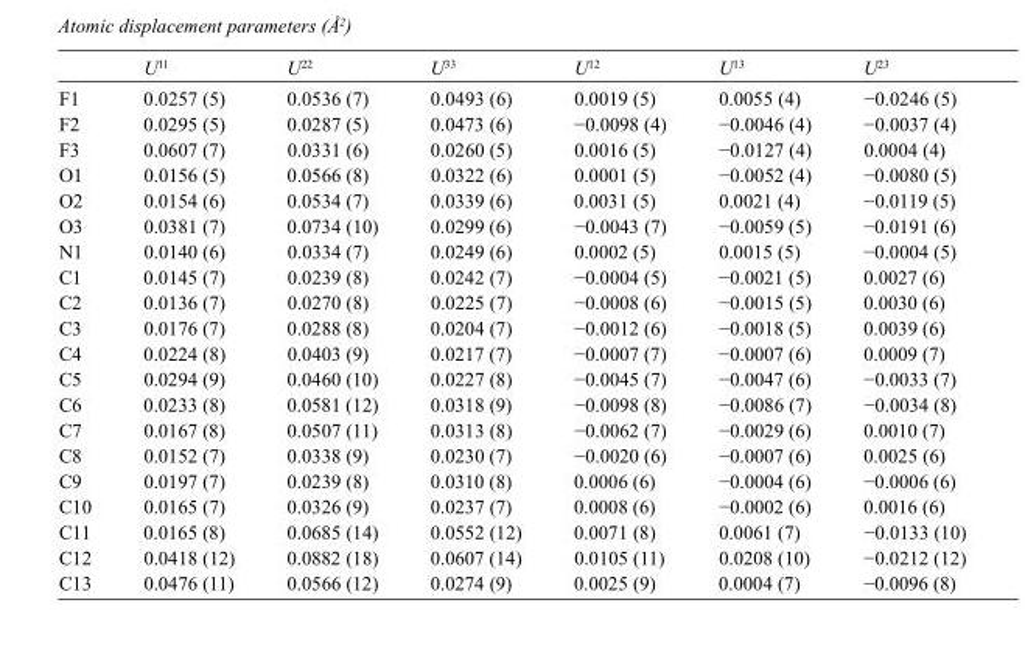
<table><thead><tr><td></td><td>U<sup>11</sup></td><td>U<sup>22</sup></td><td>U<sup>33</sup></td><td>U<sup>12</sup></td><td>U<sup>13</sup></td><td>U<sup>23</sup></td></tr></thead><tbody><tr><td>F1</td><td>0.0257 (5)</td><td>0.0536 (7)</td><td>0.0493 (6)</td><td>0.0019 (5)</td><td>0.0055 (4)</td><td>−0.0246 (5)</td></tr><tr><td>F2</td><td>0.0295 (5)</td><td>0.0287 (5)</td><td>0.0473 (6)</td><td>−0.0098 (4)</td><td>−0.0046 (4)</td><td>−0.0037 (4)</td></tr><tr><td>F3</td><td>0.0607 (7)</td><td>0.0331 (6)</td><td>0.0260 (5)</td><td>0.0016 (5)</td><td>−0.0127 (4)</td><td>0.0004 (4)</td></tr><tr><td>O1</td><td>0.0156 (5)</td><td>0.0566 (8)</td><td>0.0322 (6)</td><td>0.0001 (5)</td><td>−0.0052 (4)</td><td>−0.0080 (5)</td></tr><tr><td>O2</td><td>0.0154 (6)</td><td>0.0534 (7)</td><td>0.0339 (6)</td><td>0.0031 (5)</td><td>0.0021 (4)</td><td>−0.0119 (5)</td></tr><tr><td>O3</td><td>0.0381 (7)</td><td>0.0734 (10)</td><td>0.0299 (6)</td><td>−0.0043 (7)</td><td>−0.0059 (5)</td><td>−0.0191 (6)</td></tr><tr><td>N1</td><td>0.0140 (6)</td><td>0.0334 (7)</td><td>0.0249 (6)</td><td>0.0002 (5)</td><td>0.0015 (5)</td><td>−0.0004 (5)</td></tr><tr><td>C1</td><td>0.0145 (7)</td><td>0.0239 (8)</td><td>0.0242 (7)</td><td>−0.0004 (5)</td><td>−0.0021 (5)</td><td>0.0027 (6)</td></tr><tr><td>C2</td><td>0.0136 (7)</td><td>0.0270 (8)</td><td>0.0225 (7)</td><td>−0.0008 (6)</td><td>−0.0015 (5)</td><td>0.0030 (6)</td></tr><tr><td>C3</td><td>0.0176 (7)</td><td>0.0288 (8)</td><td>0.0204 (7)</td><td>−0.0012 (6)</td><td>−0.0018 (5)</td><td>0.0039 (6)</td></tr><tr><td>C4</td><td>0.0224 (8)</td><td>0.0403 (9)</td><td>0.0217 (7)</td><td>−0.0007 (7)</td><td>−0.0007 (6)</td><td>0.0009 (7)</td></tr><tr><td>C5</td><td>0.0294 (9)</td><td>0.0460 (10)</td><td>0.0227 (8)</td><td>−0.0045 (7)</td><td>−0.0047 (6)</td><td>−0.0033 (7)</td></tr><tr><td>C6</td><td>0.0233 (8)</td><td>0.0581 (12)</td><td>0.0318 (9)</td><td>−0.0098 (8)</td><td>−0.0086 (7)</td><td>−0.0034 (8)</td></tr><tr><td>C7</td><td>0.0167 (8)</td><td>0.0507 (11)</td><td>0.0313 (8)</td><td>−0.0062 (7)</td><td>−0.0029 (6)</td><td>0.0010 (7)</td></tr><tr><td>C8</td><td>0.0152 (7)</td><td>0.0338 (9)</td><td>0.0230 (7)</td><td>−0.0020 (6)</td><td>−0.0007 (6)</td><td>0.0025 (6)</td></tr><tr><td>C9</td><td>0.0197 (7)</td><td>0.0239 (8)</td><td>0.0310 (8)</td><td>0.0006 (6)</td><td>−0.0004 (6)</td><td>−0.0006 (6)</td></tr><tr><td>C10</td><td>0.0165 (7)</td><td>0.0326 (9)</td><td>0.0237 (7)</td><td>0.0008 (6)</td><td>−0.0002 (6)</td><td>0.0016 (6)</td></tr><tr><td>C11</td><td>0.0165 (8)</td><td>0.0685 (14)</td><td>0.0552 (12)</td><td>0.0071 (8)</td><td>0.0061 (7)</td><td>−0.0133 (10)</td></tr><tr><td>C12</td><td>0.0418 (12)</td><td>0.0882 (18)</td><td>0.0607 (14)</td><td>0.0105 (11)</td><td>0.0208 (10)</td><td>−0.0212 (12)</td></tr><tr><td>C13</td><td>0.0476 (11)</td><td>0.0566 (12)</td><td>0.0274 (9)</td><td>0.0025 (9)</td><td>0.0004 (7)</td><td>−0.0096 (8)</td></tr></tbody></table>